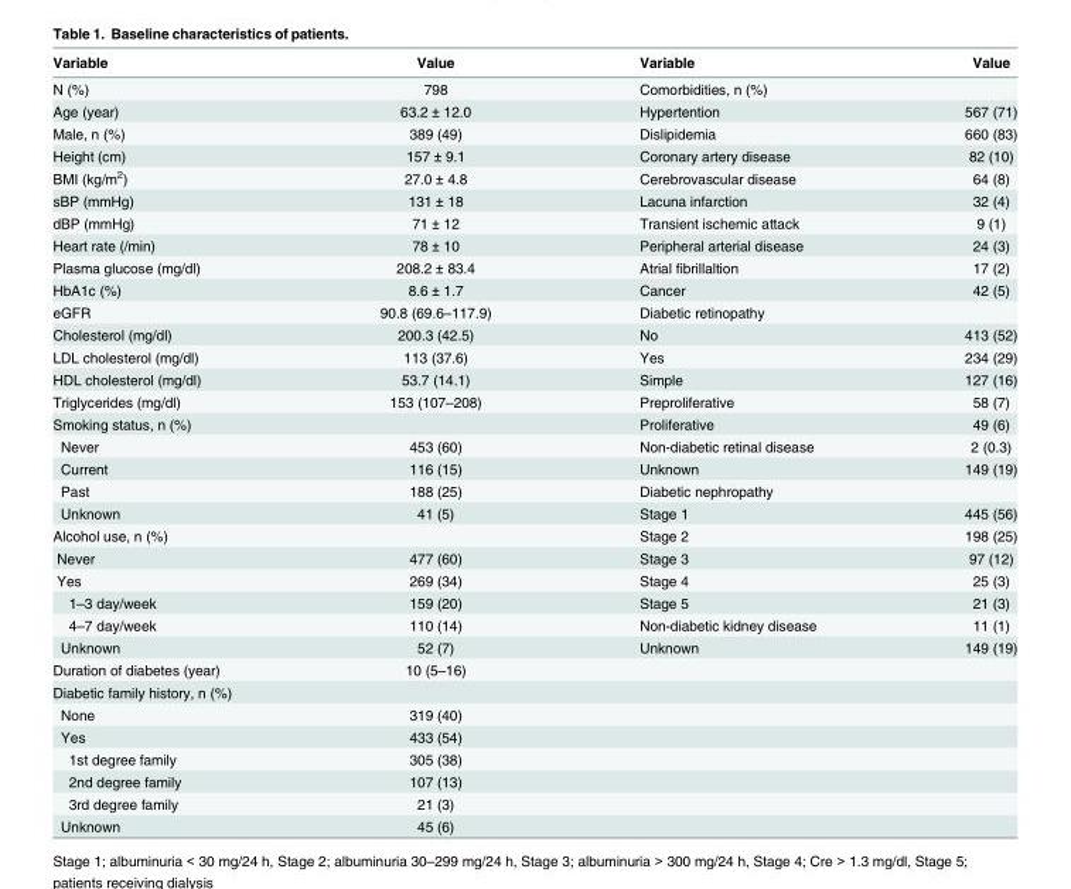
<table><thead><tr><td>Variable</td><td>Value</td><td>Variable</td><td>Value</td></tr></thead><tbody><tr><td>N (%)</td><td>798</td><td>Comorbidities, n (%)</td><td></td></tr><tr><td>Age (year)</td><td>63.2 ± 12.0</td><td>Hypertention</td><td>567 (71)</td></tr><tr><td>Male, n (%)</td><td>389 (49)</td><td>Dislipidemia</td><td>660 (83)</td></tr><tr><td>Height (cm)</td><td>157 ± 9.1</td><td>Coronary artery disease</td><td>82 (10)</td></tr><tr><td>BMI (kg/m<sup>2</sup>)</td><td>27.0 ± 4.8</td><td>Cerebrovascular disease</td><td>64 (8)</td></tr><tr><td>sBP (mmHg)</td><td>131 ± 18</td><td>Lacuna infarction</td><td>32 (4)</td></tr><tr><td>dBP (mmHg)</td><td>71 ± 12</td><td>Transient ischemic attack</td><td>9 (1)</td></tr><tr><td>Heart rate (/min)</td><td>78 ± 10</td><td>Peripheral arterial disease</td><td>24 (3)</td></tr><tr><td>Plasma glucose (mg/dl)</td><td>208.2 ± 83.4</td><td>Atrial fibrillaltion</td><td>17 (2)</td></tr><tr><td>HbA1c (%)</td><td>8.6 ± 1.7</td><td>Cancer</td><td>42 (5)</td></tr><tr><td>eGFR</td><td>90.8 (69.6–117.9)</td><td>Diabetic retinopathy</td><td></td></tr><tr><td>Cholesterol (mg/dl)</td><td>200.3 (42.5)</td><td>No</td><td>413 (52)</td></tr><tr><td>LDL cholesterol (mg/dl)</td><td>113 (37.6)</td><td>Yes</td><td>234 (29)</td></tr><tr><td>HDL cholesterol (mg/dl)</td><td>53.7 (14.1)</td><td>Simple</td><td>127 (16)</td></tr><tr><td>Triglycerides (mg/dl)</td><td>153 (107–208)</td><td>Preproliferative</td><td>58 (7)</td></tr><tr><td>Smoking status, n (%)</td><td></td><td>Proliferative</td><td>49 (6)</td></tr><tr><td>Never</td><td>453 (60)</td><td>Non-diabetic retinal disease</td><td>2 (0.3)</td></tr><tr><td>Current</td><td>116 (15)</td><td>Unknown</td><td>149 (19)</td></tr><tr><td>Past</td><td>188 (25)</td><td>Diabetic nephropathy</td><td></td></tr><tr><td>Unknown</td><td>41 (5)</td><td>Stage 1</td><td>445 (56)</td></tr><tr><td>Alcohol use, n (%)</td><td></td><td>Stage 2</td><td>198 (25)</td></tr><tr><td>Never</td><td>477 (60)</td><td>Stage 3</td><td>97 (12)</td></tr><tr><td>Yes</td><td>269 (34)</td><td>Stage 4</td><td>25 (3)</td></tr><tr><td>1–3 day/week</td><td>159 (20)</td><td>Stage 5</td><td>21 (3)</td></tr><tr><td>4–7 day/week</td><td>110 (14)</td><td>Non-diabetic kidney disease</td><td>11 (1)</td></tr><tr><td>Unknown</td><td>52 (7)</td><td>Unknown</td><td>149 (19)</td></tr><tr><td>Duration of diabetes (year)</td><td>10 (5–16)</td><td></td><td></td></tr><tr><td colspan="4">Diabetic family history, n (%)</td></tr><tr><td>None</td><td>319 (40)</td><td></td><td></td></tr><tr><td>Yes</td><td>433 (54)</td><td></td><td></td></tr><tr><td>1st degree family</td><td>305 (38)</td><td></td><td></td></tr><tr><td>2nd degree family</td><td>107 (13)</td><td></td><td></td></tr><tr><td>3rd degree family</td><td>21 (3)</td><td></td><td></td></tr><tr><td>Unknown</td><td>45 (6)</td><td></td><td></td></tr></tbody></table>